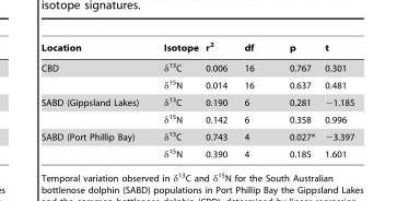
<table><thead><tr><td>Location</td><td>Isotope</td><td>r<sup>2</sup></td><td>df</td><td>p</td><td>t</td></tr></thead><tbody><tr><td rowspan="2">CBD</td><td>δ<sup>13</sup>C</td><td>0.006</td><td>16</td><td>0.767</td><td>0.301</td></tr><tr><td>δ<sup>15</sup>N</td><td>0.014</td><td>16</td><td>0.637</td><td>0.481</td></tr><tr><td rowspan="2">SABD (Gippsland Lakes)</td><td>δ<sup>13</sup>C</td><td>0.190</td><td>6</td><td>0.281</td><td>−1.185</td></tr><tr><td>δ<sup>15</sup>N</td><td>0.142</td><td>6</td><td>0.358</td><td>0.996</td></tr><tr><td rowspan="2">SABD (Port Phillip Bay)</td><td>δ<sup>13</sup>C</td><td>0.743</td><td>4</td><td>0.027*</td><td>−3.397</td></tr><tr><td>δ<sup>15</sup>N</td><td>0.390</td><td>4</td><td>0.185</td><td>1.601</td></tr></tbody></table>